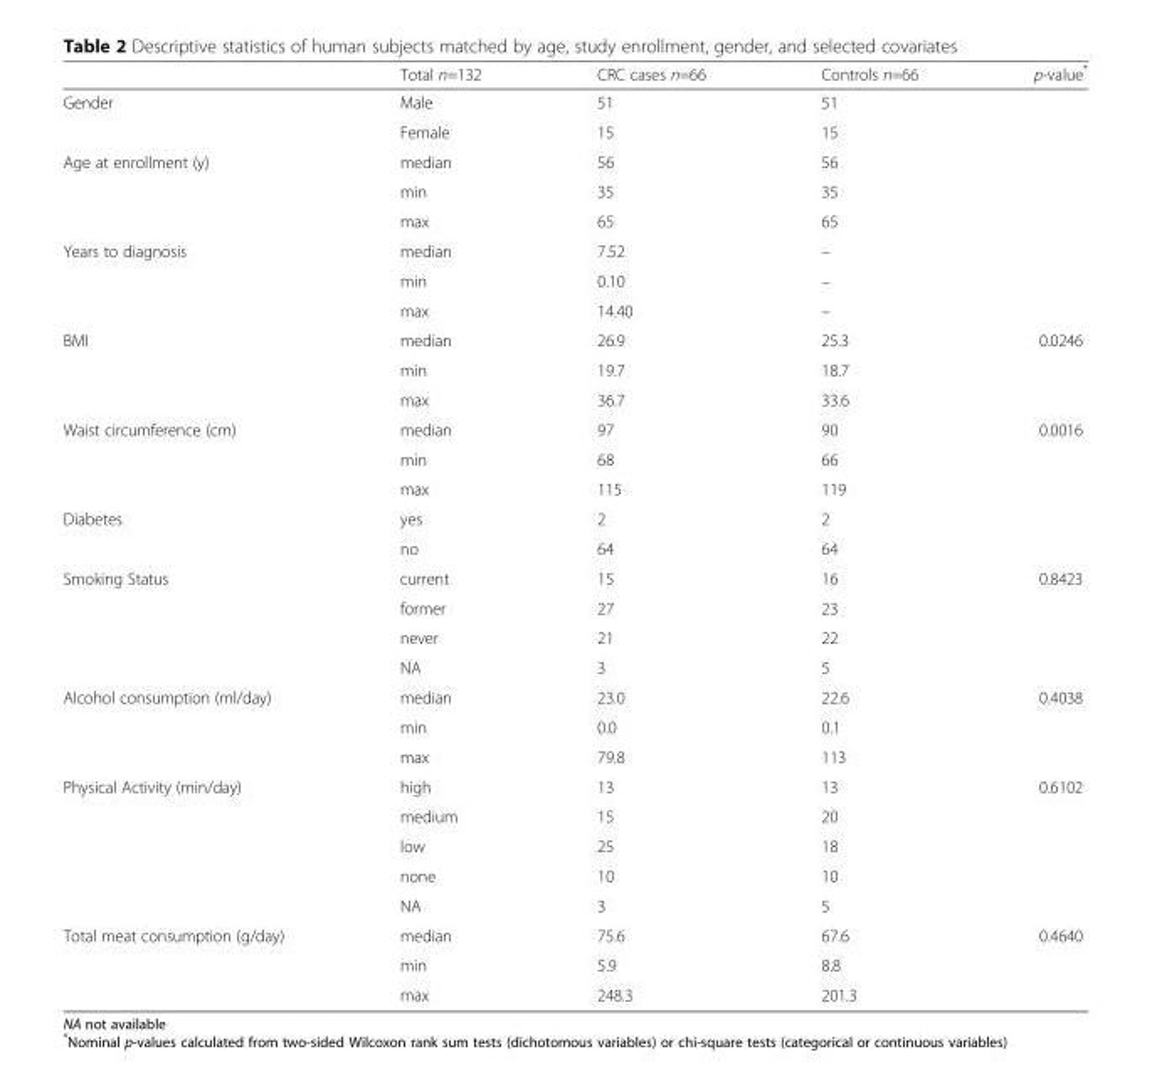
<table><thead><tr><td></td><td>Total n=132</td><td>CRC cases n=66</td><td>Controls n=66</td><td>p-value*</td></tr></thead><tbody><tr><td rowspan="2">Gender</td><td>Male</td><td>51</td><td>51</td><td></td></tr><tr><td>Female</td><td>15</td><td>15</td><td></td></tr><tr><td rowspan="3">Age at enrollment (y)</td><td>median</td><td>56</td><td>56</td><td></td></tr><tr><td>min</td><td>35</td><td>35</td><td></td></tr><tr><td>max</td><td>65</td><td>65</td><td></td></tr><tr><td rowspan="3">Years to diagnosis</td><td>median</td><td>7.52</td><td>–</td><td></td></tr><tr><td>min</td><td>0.10</td><td>–</td><td></td></tr><tr><td>max</td><td>14.40</td><td>–</td><td></td></tr><tr><td rowspan="3">BMI</td><td>median</td><td>26.9</td><td>25.3</td><td>0.0246</td></tr><tr><td>min</td><td>19.7</td><td>18.7</td><td></td></tr><tr><td>max</td><td>36.7</td><td>33.6</td><td></td></tr><tr><td rowspan="3">Waist circumference (cm)</td><td>median</td><td>97</td><td>90</td><td>0.0016</td></tr><tr><td>min</td><td>68</td><td>66</td><td></td></tr><tr><td>max</td><td>115</td><td>119</td><td></td></tr><tr><td rowspan="2">Diabetes</td><td>yes</td><td>2</td><td>2</td><td></td></tr><tr><td>no</td><td>64</td><td>64</td><td></td></tr><tr><td rowspan="4">Smoking Status</td><td>current</td><td>15</td><td>16</td><td>0.8423</td></tr><tr><td>former</td><td>27</td><td>23</td><td></td></tr><tr><td>never</td><td>21</td><td>22</td><td></td></tr><tr><td>NA</td><td>3</td><td>5</td><td></td></tr><tr><td rowspan="3">Alcohol consumption (ml/day)</td><td>median</td><td>23.0</td><td>22.6</td><td>0.4038</td></tr><tr><td>min</td><td>0.0</td><td>0.1</td><td></td></tr><tr><td>max</td><td>79.8</td><td>113</td><td></td></tr><tr><td rowspan="5">Physical Activity (min/day)</td><td>high</td><td>13</td><td>13</td><td>0.6102</td></tr><tr><td>medium</td><td>15</td><td>20</td><td></td></tr><tr><td>low</td><td>25</td><td>18</td><td></td></tr><tr><td>none</td><td>10</td><td>10</td><td></td></tr><tr><td>NA</td><td>3</td><td>5</td><td></td></tr><tr><td rowspan="3">Total meat consumption (g/day)</td><td>median</td><td>75.6</td><td>67.6</td><td>0.4640</td></tr><tr><td>min</td><td>5.9</td><td>8.8</td><td></td></tr><tr><td>max</td><td>248.3</td><td>201.3</td><td></td></tr></tbody></table>